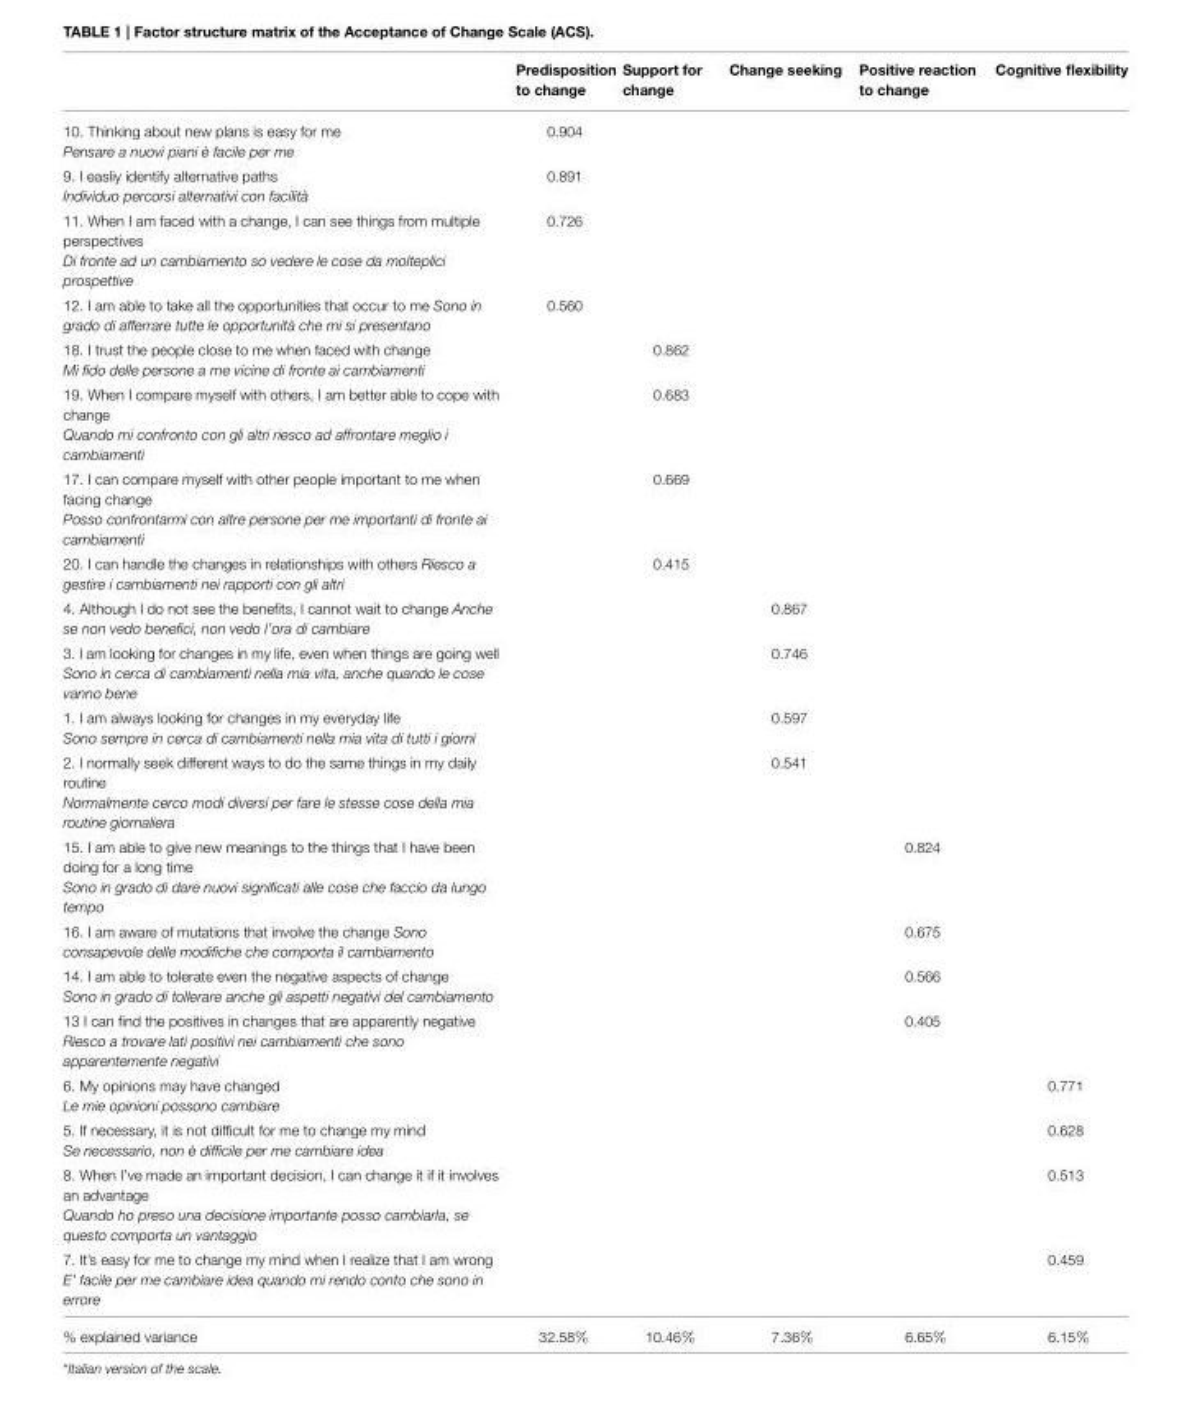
<table><thead><tr><td></td><td>Predisposition to change</td><td>Support for change</td><td>Change seeking</td><td>Positive reaction to change</td><td>Cognitive flexibility</td></tr></thead><tbody><tr><td>10. Thinking about new plans is easy for me Pensare a nuovi piani è facile per me</td><td>0.904</td><td></td><td></td><td></td><td></td></tr><tr><td>9. I easliy identify alternative paths Individuo percorsi alternativi con facilità</td><td>0.891</td><td></td><td></td><td></td><td></td></tr><tr><td>11. When I am faced with a change, I can see things from multiple perspectives Di fronte ad un cambiamento so vedere le cose da molteplici prospettive</td><td>0.726</td><td></td><td></td><td></td><td></td></tr><tr><td>12. I am able to take all the opportunities that occur to me Sono in grado di afferrare tutte le opportunità che mi si presentano</td><td>0.560</td><td></td><td></td><td></td><td></td></tr><tr><td>18. I trust the people close to me when faced with change Mi fido delle persone a me vicine di fronte ai cambiamenti</td><td></td><td>0.862</td><td></td><td></td><td></td></tr><tr><td>19. When I compare myself with others, I am better able to cope with change Quando mi confronto con gli altri riesco ad affrontare meglio i cambiamenti</td><td></td><td>0.683</td><td></td><td></td><td></td></tr><tr><td>17. I can compare myself with other people important to me when facing change Posso confrontarmi con altre persone per me importanti di fronte ai cambiamenti</td><td></td><td>0.669</td><td></td><td></td><td></td></tr><tr><td>20. I can handle the changes in relationships with others Riesco a gestire i cambiamenti nei rapporti con gli altri</td><td></td><td>0.415</td><td></td><td></td><td></td></tr><tr><td>4. Although I do not see the benefits, I cannot wait to change Anche se non vedo benefici, non vedo l’ora di cambiare</td><td></td><td></td><td>0.867</td><td></td><td></td></tr><tr><td>3. I am looking for changes in my life, even when things are going well Sono in cerca di cambiamenti nella mia vita, anche quando le cose vanno bene</td><td></td><td></td><td>0.746</td><td></td><td></td></tr><tr><td>1. I am always looking for changes in my everyday life Sono sempre in cerca di cambiamenti nella mia vita di tutti i giorni</td><td></td><td></td><td>0.597</td><td></td><td></td></tr><tr><td>2. I normally seek different ways to do the same things in my daily routine Normalmente cerco modi diversi per fare le stesse cose della mia routine giornaliera</td><td></td><td></td><td>0.541</td><td></td><td></td></tr><tr><td>15. I am able to give new meanings to the things that I have been doing for a long time Sono in grado di dare nuovi significati alle cose che faccio da lungo tempo</td><td></td><td></td><td></td><td>0.824</td><td></td></tr><tr><td>16. I am aware of mutations that involve the change Sono consapevole delle modifiche che comporta il cambiamento</td><td></td><td></td><td></td><td>0.675</td><td></td></tr><tr><td>14. I am able to tolerate even the negative aspects of change Sono in grado di tollerare anche gli aspetti negativi del cambiamento</td><td></td><td></td><td></td><td>0.566</td><td></td></tr><tr><td>13 I can find the positives in changes that are apparently negative Riesco a trovare lati positivi nei cambiamenti che sono apparentemente negativi</td><td></td><td></td><td></td><td>0.405</td><td></td></tr><tr><td>6. My opinions may have changed Le mie opinioni possono cambiare</td><td></td><td></td><td></td><td></td><td>0.771</td></tr><tr><td>5. If necessary, it is not difficult for me to change my mind Se necessario, non è difficile per me cambiare idea</td><td></td><td></td><td></td><td></td><td>0.628</td></tr><tr><td>8. When I’ve made an important decision, I can change it if it involves an advantage Quando ho preso una decisione importante posso cambiarla, se questo comporta un vantaggio</td><td></td><td></td><td></td><td></td><td>0.513</td></tr><tr><td>7. It’s easy for me to change my mind when I realize that I am wrong E’ facile per me cambiare idea quando mi rendo conto che sono in errore</td><td></td><td></td><td></td><td></td><td>0.459</td></tr><tr><td>% explained variance</td><td>32.58%</td><td>10.46%</td><td>7.36%</td><td>6.65%</td><td>6.15%</td></tr></tbody></table>